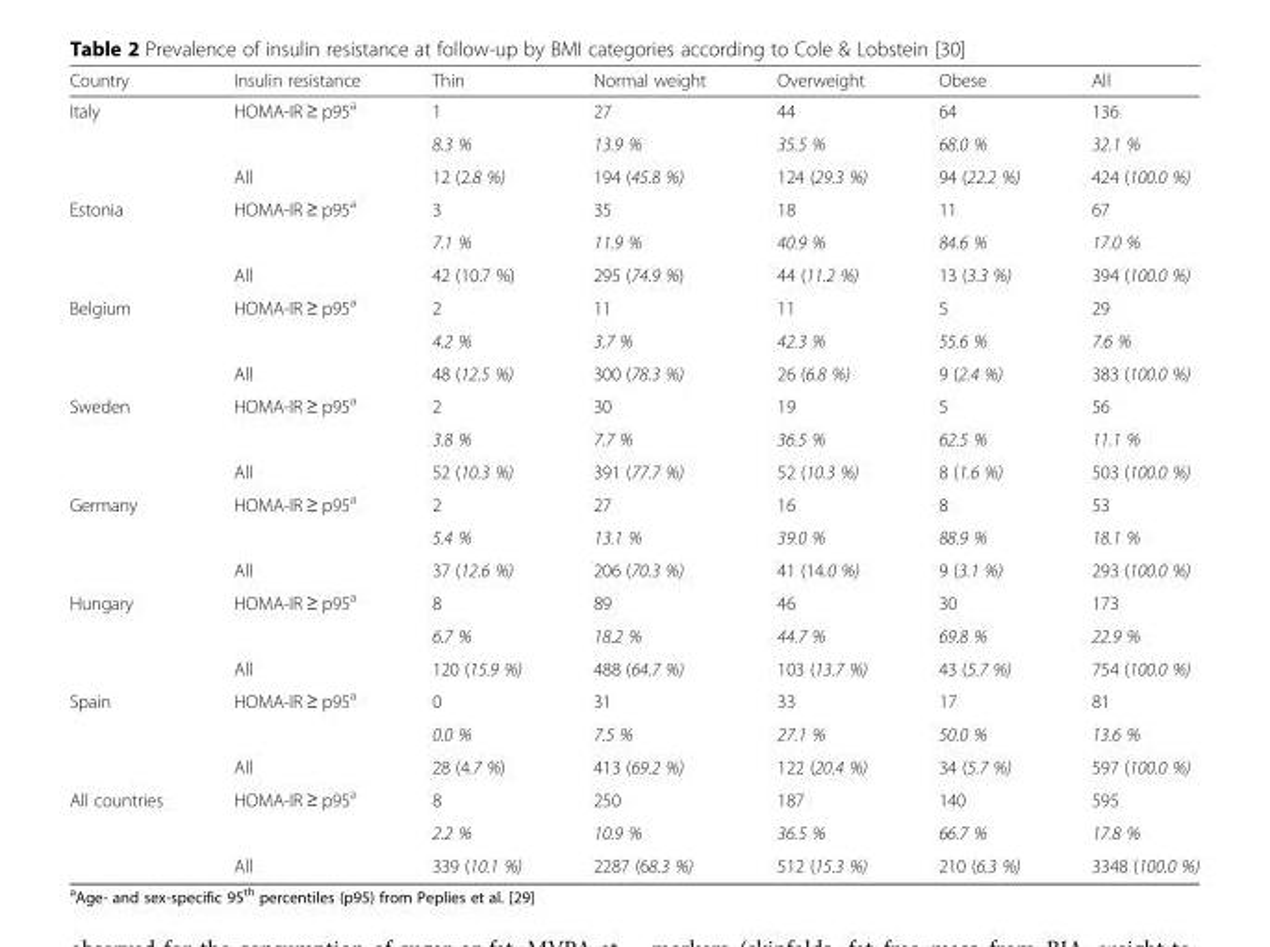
<table><thead><tr><td>Country</td><td>Insulin resistance</td><td>Thin</td><td>Normal weight</td><td>Overweight</td><td>Obese</td><td>All</td></tr></thead><tbody><tr><td rowspan="3">Italy</td><td>HOMA-IR ≥ p95<sup>a</sup></td><td>1</td><td>27</td><td>44</td><td>64</td><td>136</td></tr><tr><td></td><td>8.3 %</td><td>13.9 %</td><td>35.5 %</td><td>68.0 %</td><td>32.1 %</td></tr><tr><td>All</td><td>12 (2.8 %)</td><td>194 (45.8 %)</td><td>124 (29.3 %)</td><td>94 (22.2 %)</td><td>424 (100.0 %)</td></tr><tr><td rowspan="3">Estonia</td><td>HOMA-IR ≥ p95<sup>a</sup></td><td>3</td><td>35</td><td>18</td><td>11</td><td>67</td></tr><tr><td></td><td>7.1 %</td><td>11.9 %</td><td>40.9 %</td><td>84.6 %</td><td>17.0 %</td></tr><tr><td>All</td><td>42 (10.7 %)</td><td>295 (74.9 %)</td><td>44 (11.2 %)</td><td>13 (3.3 %)</td><td>394 (100.0 %)</td></tr><tr><td rowspan="3">Belgium</td><td>HOMA-IR ≥ p95<sup>a</sup></td><td>2</td><td>11</td><td>11</td><td>5</td><td>29</td></tr><tr><td></td><td>4.2 %</td><td>3.7 %</td><td>42.3 %</td><td>55.6 %</td><td>7.6 %</td></tr><tr><td>All</td><td>48 (12.5 %)</td><td>300 (78.3 %)</td><td>26 (6.8 %)</td><td>9 (2.4 %)</td><td>383 (100.0 %)</td></tr><tr><td rowspan="3">Sweden</td><td>HOMA-IR ≥ p95<sup>a</sup></td><td>2</td><td>30</td><td>19</td><td>5</td><td>56</td></tr><tr><td></td><td>3.8 %</td><td>7.7 %</td><td>36.5 %</td><td>62.5 %</td><td>11.1 %</td></tr><tr><td>All</td><td>52 (10.3 %)</td><td>391 (77.7 %)</td><td>52 (10.3 %)</td><td>8 (1.6 %)</td><td>503 (100.0 %)</td></tr><tr><td rowspan="3">Germany</td><td>HOMA-IR ≥ p95<sup>a</sup></td><td>2</td><td>27</td><td>16</td><td>8</td><td>53</td></tr><tr><td></td><td>5.4 %</td><td>13.1 %</td><td>39.0 %</td><td>88.9 %</td><td>18.1 %</td></tr><tr><td>All</td><td>37 (12.6 %)</td><td>206 (70.3 %)</td><td>41 (14.0 %)</td><td>9 (3.1 %)</td><td>293 (100.0 %)</td></tr><tr><td rowspan="3">Hungary</td><td>HOMA-IR ≥ p95<sup>a</sup></td><td>8</td><td>89</td><td>46</td><td>30</td><td>173</td></tr><tr><td></td><td>6.7 %</td><td>18.2 %</td><td>44.7 %</td><td>69.8 %</td><td>22.9 %</td></tr><tr><td>All</td><td>120 (15.9 %)</td><td>488 (64.7 %)</td><td>103 (13.7 %)</td><td>43 (5.7 %)</td><td>754 (100.0 %)</td></tr><tr><td rowspan="3">Spain</td><td>HOMA-IR ≥ p95<sup>a</sup></td><td>0</td><td>31</td><td>33</td><td>17</td><td>81</td></tr><tr><td></td><td>0.0 %</td><td>7.5 %</td><td>27.1 %</td><td>50.0 %</td><td>13.6 %</td></tr><tr><td>All</td><td>28 (4.7 %)</td><td>413 (69.2 %)</td><td>122 (20.4 %)</td><td>34 (5.7 %)</td><td>597 (100.0 %)</td></tr><tr><td rowspan="3">All countries</td><td>HOMA-IR ≥ p95<sup>a</sup></td><td>8</td><td>250</td><td>187</td><td>140</td><td>595</td></tr><tr><td></td><td>2.2 %</td><td>10.9 %</td><td>36.5 %</td><td>66.7 %</td><td>17.8 %</td></tr><tr><td>All</td><td>339 (10.1 %)</td><td>2287 (68.3 %)</td><td>512 (15.3 %)</td><td>210 (6.3 %)</td><td>3348 (100.0 %)</td></tr></tbody></table>